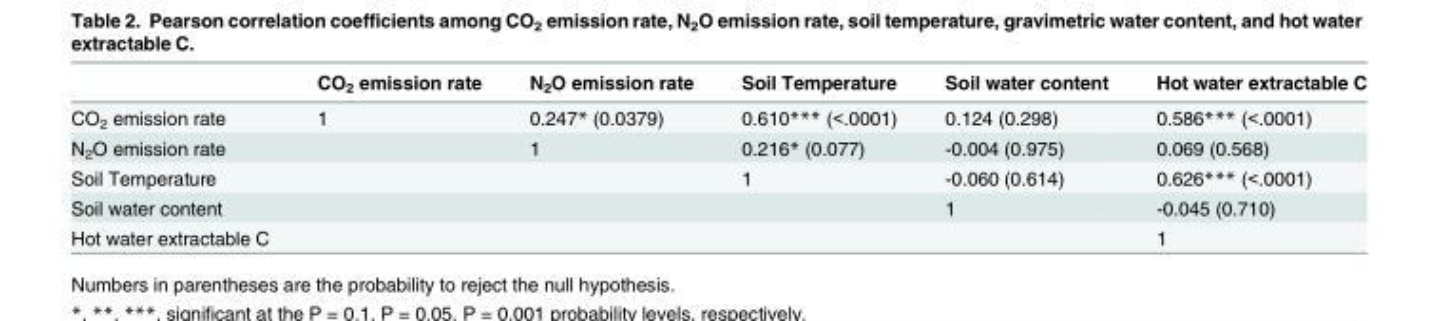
<table><thead><tr><td></td><td>CO<sub>2</sub> emission rate</td><td>N<sub>2</sub>O emission rate</td><td>Soil Temperature</td><td>Soil water content</td><td>Hot water extractable C</td></tr></thead><tbody><tr><td>CO<sub>2</sub> emission rate</td><td>1</td><td>0.247* (0.0379)</td><td>0.610*** (&lt;.0001)</td><td>0.124 (0.298)</td><td>0.586*** (&lt;.0001)</td></tr><tr><td>N<sub>2</sub>O emission rate</td><td></td><td>1</td><td>0.216* (0.077)</td><td>-0.004 (0.975)</td><td>0.069 (0.568)</td></tr><tr><td>Soil Temperature</td><td></td><td></td><td>1</td><td>-0.060 (0.614)</td><td>0.626*** (&lt;.0001)</td></tr><tr><td>Soil water content</td><td></td><td></td><td></td><td>1</td><td>-0.045 (0.710)</td></tr><tr><td>Hot water extractable C</td><td></td><td></td><td></td><td></td><td>1</td></tr></tbody></table>